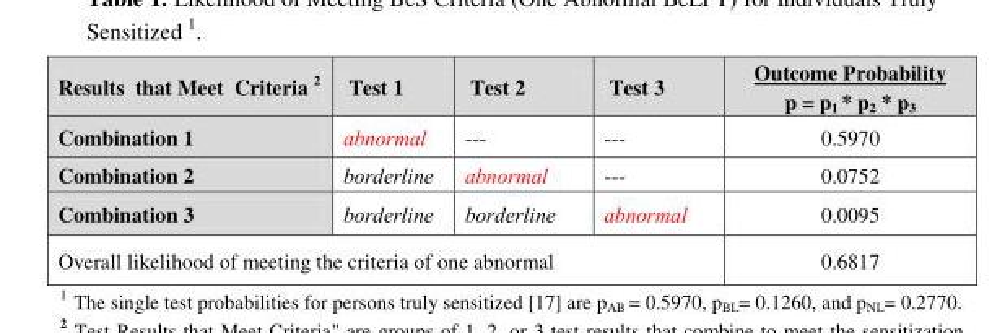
<table><thead><tr><td>Results that Meet Criteria <sup>2</sup></td><td>Test 1</td><td>Test 2</td><td>Test 3</td><td>Outcome Probability p = p<sub>1</sub> * p<sub>2</sub> * p<sub>3</sub></td></tr></thead><tbody><tr><td>Combination 1</td><td>abnormal</td><td>---</td><td>---</td><td>0.5970</td></tr><tr><td>Combination 2</td><td>borderline</td><td>abnormal</td><td>---</td><td>0.0752</td></tr><tr><td>Combination 3</td><td>borderline</td><td>borderline</td><td>abnormal</td><td>0.0095</td></tr><tr><td colspan="4">Overall likelihood of meeting the criteria of one abnormal</td><td>0.6817</td></tr></tbody></table>